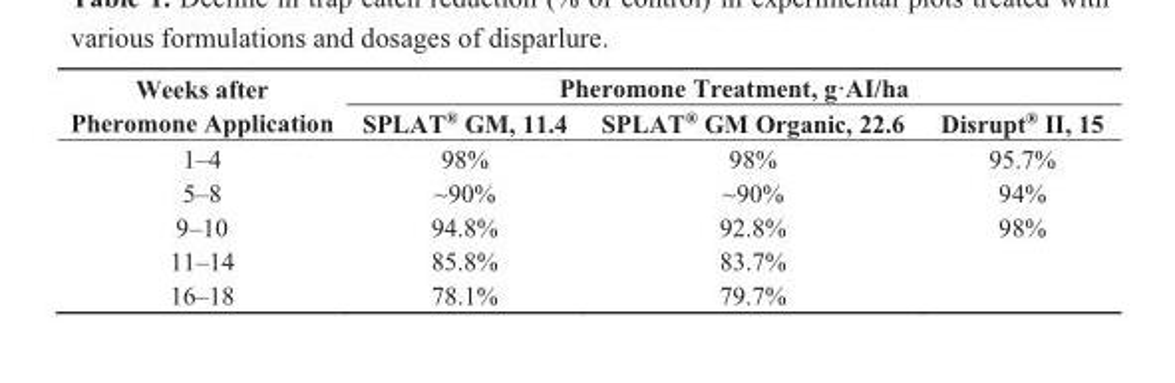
<table><thead><tr><td rowspan="2">Weeks after Pheromone Application</td><td colspan="3">Pheromone Treatment, g·AI/ha</td></tr><tr><td>SPLAT<sup>®</sup> GM, 11.4</td><td>SPLAT<sup>®</sup> GM Organic, 22.6</td><td>Disrupt<sup>®</sup> II, 15</td></tr></thead><tbody><tr><td>1–4</td><td>98%</td><td>98%</td><td>95.7%</td></tr><tr><td>5–8</td><td>~90%</td><td>~90%</td><td>94%</td></tr><tr><td>9–10</td><td>94.8%</td><td>92.8%</td><td>98%</td></tr><tr><td>11–14</td><td>85.8%</td><td>83.7%</td><td></td></tr><tr><td>16–18</td><td>78.1%</td><td>79.7%</td><td></td></tr></tbody></table>